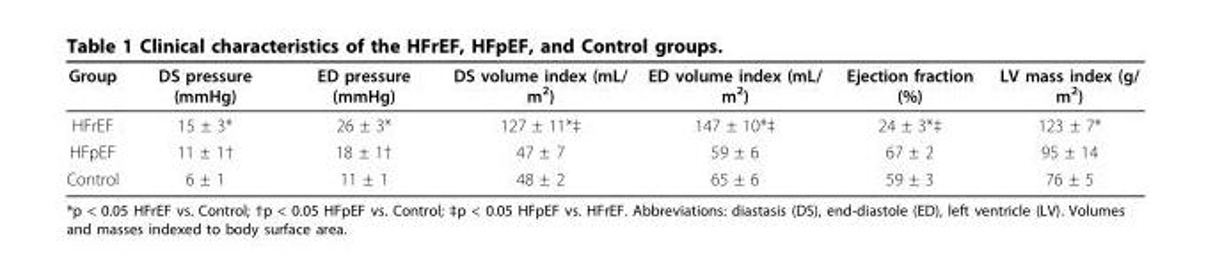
<table><thead><tr><td>Group</td><td>DS pressure (mmHg)</td><td>ED pressure (mmHg)</td><td>DS volume index (mL/ m<sup>2</sup>)</td><td>ED volume index (mL/ m<sup>2</sup>)</td><td>Ejection fraction (%)</td><td>LV mass index (g/ m<sup>2</sup>)</td></tr></thead><tbody><tr><td>HFrEF</td><td>15 ± 3*</td><td>26 ± 3*</td><td>127 ± 11*‡</td><td>147 ± 10*‡</td><td>24 ± 3*‡</td><td>123 ± 7*</td></tr><tr><td>HFpEF</td><td>11 ± 1†</td><td>18 ± 1†</td><td>47 ± 7</td><td>59 ± 6</td><td>67 ± 2</td><td>95 ± 14</td></tr><tr><td>Control</td><td>6 ± 1</td><td>11 ± 1</td><td>48 ± 2</td><td>65 ± 6</td><td>59 ± 3</td><td>76 ± 5</td></tr></tbody></table>